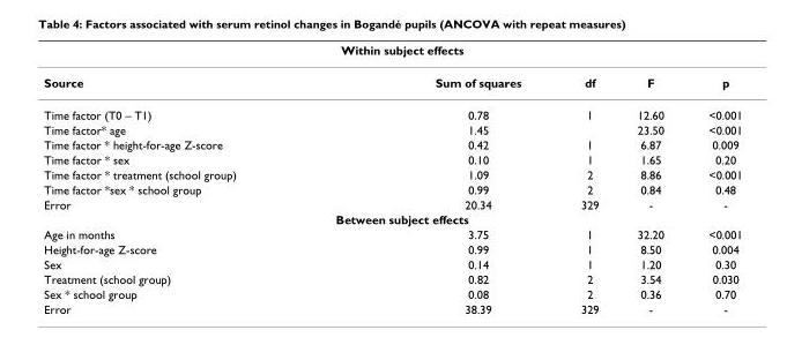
<table><thead><tr><td colspan="5">Within subject effects</td></tr><tr><td>Source</td><td>Sum of squares</td><td>df</td><td>F</td><td>p</td></tr></thead><tbody><tr><td>Time factor (T0 – T1)</td><td>0.78</td><td>1</td><td>12.60</td><td>&lt;0.001</td></tr><tr><td>Time factor* age</td><td>1.45</td><td></td><td>23.50</td><td>&lt;0.001</td></tr><tr><td>Time factor * height-for-age Z-score</td><td>0.42</td><td>1</td><td>6.87</td><td>0.009</td></tr><tr><td>Time factor * sex</td><td>0.10</td><td>1</td><td>1.65</td><td>0.20</td></tr><tr><td>Time factor * treatment (school group)</td><td>1.09</td><td>2</td><td>8.86</td><td>&lt;0.001</td></tr><tr><td>Time factor *sex * school group</td><td>0.99</td><td>2</td><td>0.84</td><td>0.48</td></tr><tr><td>Error</td><td>20.34</td><td>329</td><td>-</td><td>-</td></tr><tr><td colspan="5">Between subject effects</td></tr><tr><td>Age in months</td><td>3.75</td><td>1</td><td>32.20</td><td>&lt;0.001</td></tr><tr><td>Height-for-age Z-score</td><td>0.99</td><td>1</td><td>8.50</td><td>0.004</td></tr><tr><td>Sex</td><td>0.14</td><td>1</td><td>1.20</td><td>0.30</td></tr><tr><td>Treatment (school group)</td><td>0.82</td><td>2</td><td>3.54</td><td>0.030</td></tr><tr><td>Sex * school group</td><td>0.08</td><td>2</td><td>0.36</td><td>0.70</td></tr><tr><td>Error</td><td>38.39</td><td>329</td><td>-</td><td>-</td></tr></tbody></table>